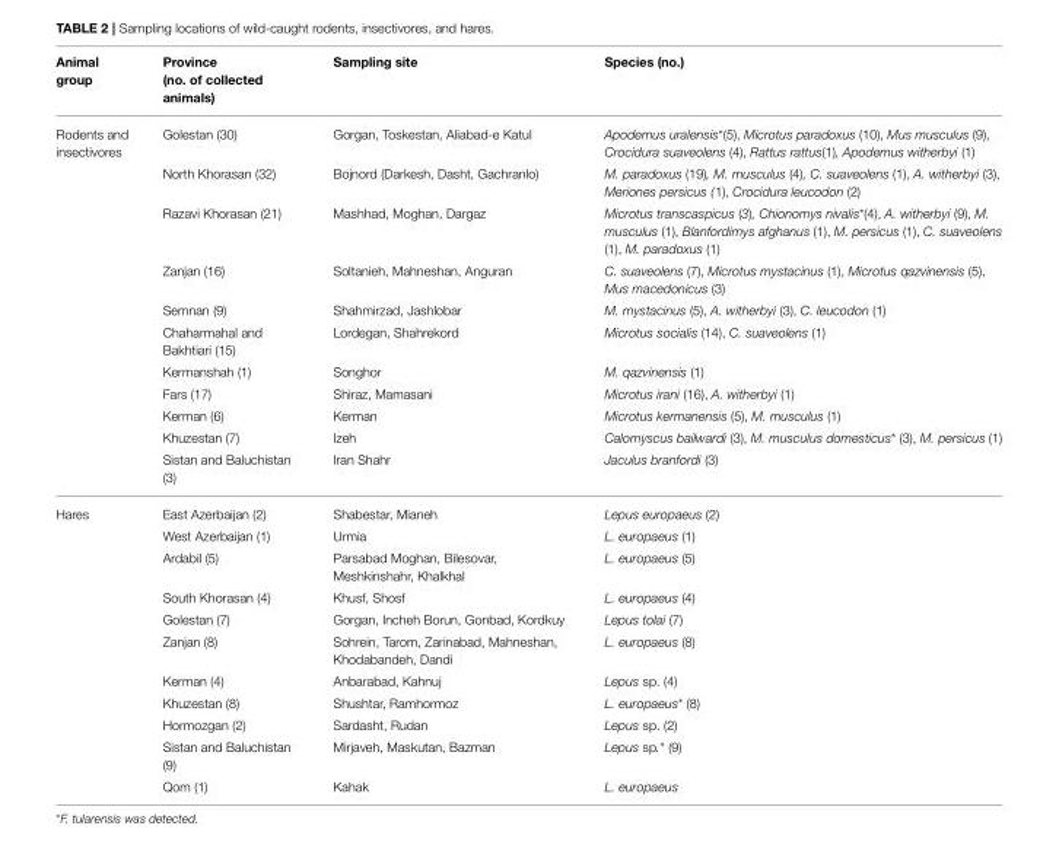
<table><thead><tr><td>Animal group</td><td>Province (no. of collected animals)</td><td>Sampling site</td><td>Species (no.)</td></tr></thead><tbody><tr><td rowspan="11">Rodents and insectivores</td><td>Golestan (30)</td><td>Gorgan, Toskestan, Aliabad-e Katul</td><td>Apodemus uralensis*(5), Microtus paradoxus (10), Mus musculus (9), Crocidura suaveolens (4), Rattus rattus(1), Apodemus witherbyi (1)</td></tr><tr><td>North Khorasan (32)</td><td>Bojnord (Darkesh, Dasht, Gachranlo)</td><td>M. paradoxus (19), M. musculus (4), C. suaveolens (1), A. witherbyi (3), Meriones persicus (1), Crocidura leucodon (2)</td></tr><tr><td>Razavi Khorasan (21)</td><td>Mashhad, Moghan, Dargaz</td><td>Microtus transcaspicus (3), Chionomys nivalis*(4), A. witherbyi (9), M. musculus (1), Blanfordimys afghanus (1), M. persicus (1), C. suaveolens (1), M. paradoxus (1)</td></tr><tr><td>Zanjan (16)</td><td>Soltanieh, Mahneshan, Anguran</td><td>C. suaveolens (7), Microtus mystacinus (1), Microtus qazvinensis (5), Mus macedonicus (3)</td></tr><tr><td>Semnan (9)</td><td>Shahmirzad, Jashlobar</td><td>M. mystacinus (5), A. witherbyi (3), C. leucodon (1)</td></tr><tr><td>Chaharmahal and Bakhtiari (15)</td><td>Lordegan, Shahrekord</td><td>Microtus socialis (14), C. suaveolens (1)</td></tr><tr><td>Kermanshah (1)</td><td>Songhor</td><td>M. qazvinensis (1)</td></tr><tr><td>Fars (17)</td><td>Shiraz, Mamasani</td><td>Microtus irani (16), A. witherbyi (1)</td></tr><tr><td>Kerman (6)</td><td>Kerman</td><td>Microtus kermanensis (5), M. musculus (1)</td></tr><tr><td>Khuzestan (7)</td><td>Izeh</td><td>Calomyscus bailwardi (3), M. musculus domesticus* (3), M. persicus (1)</td></tr><tr><td>Sistan and Baluchistan (3)</td><td>Iran Shahr</td><td>Jaculus branfordi (3)</td></tr><tr><td rowspan="11">Hares</td><td>East Azerbaijan (2)</td><td>Shabestar, Mianeh</td><td>Lepus europaeus (2)</td></tr><tr><td>West Azerbaijan (1)</td><td>Urmia</td><td>L. europaeus (1)</td></tr><tr><td>Ardabil (5)</td><td>Parsabad Moghan, Bilesovar, Meshkinshahr, Khalkhal</td><td>L. europaeus (5)</td></tr><tr><td>South Khorasan (4)</td><td>Khusf, Shosf</td><td>L. europaeus (4)</td></tr><tr><td>Golestan (7)</td><td>Gorgan, Incheh Borun, Gonbad, Kordkuy</td><td>Lepus tolai (7)</td></tr><tr><td>Zanjan (8)</td><td>Sohrein, Tarom, Zarinabad, Mahneshan, Khodabandeh, Dandi</td><td>L. europaeus (8)</td></tr><tr><td>Kerman (4)</td><td>Anbarabad, Kahnuj</td><td>Lepus sp. (4)</td></tr><tr><td>Khuzestan (8)</td><td>Shushtar, Ramhormoz</td><td>L. europaeus* (8)</td></tr><tr><td>Hormozgan (2)</td><td>Sardasht, Rudan</td><td>Lepus sp. (2)</td></tr><tr><td>Sistan and Baluchistan (9)</td><td>Mirjaveh, Maskutan, Bazman</td><td>Lepus sp.* (9)</td></tr><tr><td>Qom (1)</td><td>Kahak</td><td>L. europaeus</td></tr></tbody></table>